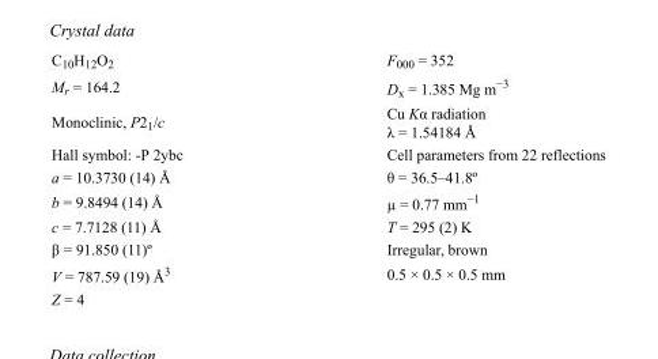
<table><tbody><tr><td>C<sub>10</sub>H<sub>12</sub>O<sub>2</sub></td><td>F<sub>000</sub> = 352</td></tr><tr><td>M<sub>r</sub> = 164.2</td><td>D<sub>x</sub> = 1.385 Mg m<sup>−3</sup></td></tr><tr><td>Monoclinic, P2<sub>1</sub>/c</td><td>Cu Kα radiation λ = 1.54184 Å</td></tr><tr><td>Hall symbol: -P 2ybc</td><td>Cell parameters from 22 reflections</td></tr><tr><td>a = 10.3730 (14) Å</td><td>θ = 36.5–41.8º</td></tr><tr><td>b = 9.8494 (14) Å</td><td>µ = 0.77 mm<sup>−1</sup></td></tr><tr><td>c = 7.7128 (11) Å</td><td>T = 295 (2) K</td></tr><tr><td>β = 91.850 (11)º</td><td>Irregular, brown</td></tr><tr><td>V = 787.59 (19) Å<sup>3</sup></td><td>0.5 × 0.5 × 0.5 mm</td></tr><tr><td>Z = 4</td><td></td></tr></tbody></table>